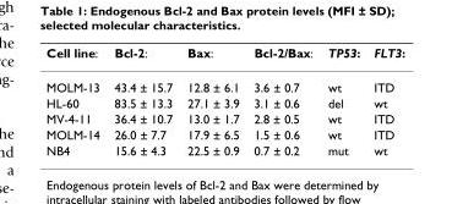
<table><thead><tr><td>Cell line:</td><td>Bcl-2:</td><td>Bax:</td><td>Bcl-2/Bax:</td><td>TP53:</td><td>FLT3:</td></tr></thead><tbody><tr><td>MOLM-13</td><td>43.4 ± 15.7</td><td>12.8 ± 6.1</td><td>3.6 ± 0.7</td><td>wt</td><td>ITD</td></tr><tr><td>HL-60</td><td>83.5 ± 13.3</td><td>27.1 ± 3.9</td><td>3.1 ± 0.6</td><td>del</td><td>wt</td></tr><tr><td>MV-4-11</td><td>36.4 ± 10.7</td><td>13.0 ± 1.7</td><td>2.8 ± 0.5</td><td>wt</td><td>ITD</td></tr><tr><td>MOLM-14</td><td>26.0 ± 7.7</td><td>17.9 ± 6.5</td><td>1.5 ± 0.6</td><td>wt</td><td>ITD</td></tr><tr><td>NB4</td><td>15.6 ± 4.3</td><td>22.5 ± 0.9</td><td>0.7 ± 0.2</td><td>mut</td><td>wt</td></tr></tbody></table>